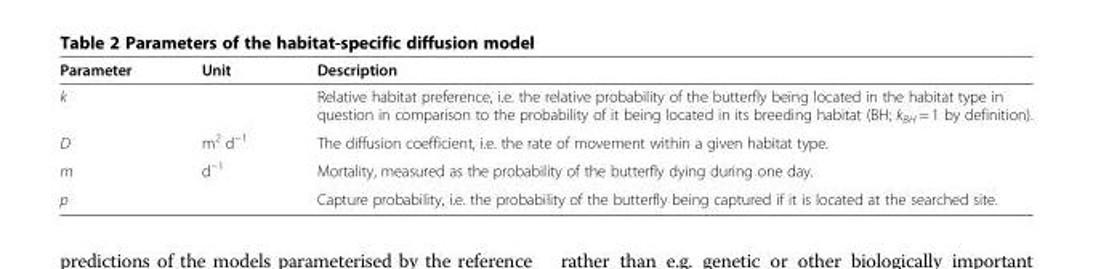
<table><thead><tr><td>Parameter</td><td>Unit</td><td>Description</td></tr></thead><tbody><tr><td>k</td><td></td><td>Relative habitat preference, i.e. the relative probability of the butterfly being located in the habitat type in question in comparison to the probability of it being located in its breeding habitat (BH; k<sub>BH</sub> = 1 by definition).</td></tr><tr><td>D</td><td>m<sup>2</sup> d<sup>−1</sup></td><td>The diffusion coefficient, i.e. the rate of movement within a given habitat type.</td></tr><tr><td>m</td><td>d<sup>−1</sup></td><td>Mortality, measured as the probability of the butterfly dying during one day.</td></tr><tr><td>p</td><td></td><td>Capture probability, i.e. the probability of the butterfly being captured if it is located at the searched site.</td></tr></tbody></table>